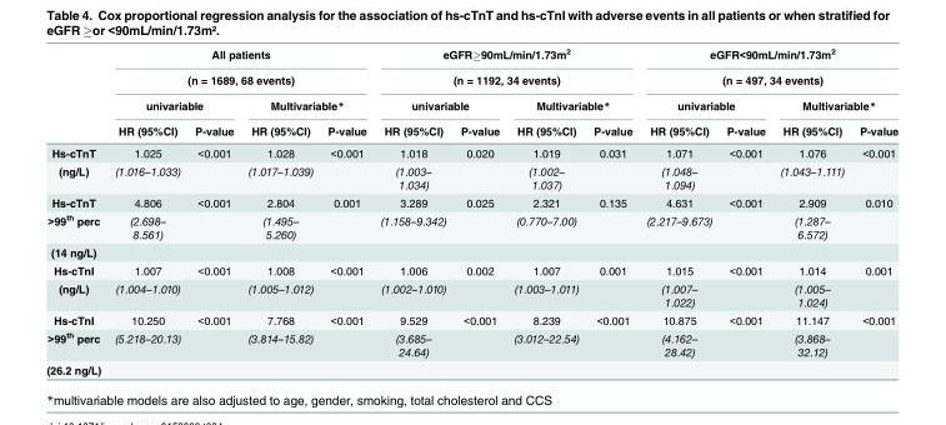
<table><thead><tr><td rowspan="4"></td><td rowspan="2" colspan="4">All patients (n = 1689, 68 events)</td><td rowspan="2" colspan="4">eGFR≥90mL/min/1.73m<sup>2</sup> (n = 1192, 34 events)</td><td rowspan="2" colspan="4">eGFR&lt;90mL/min/1.73m<sup>2</sup> (n = 497, 34 events)</td></tr><tr></tr><tr><td colspan="2">univariable</td><td colspan="2">Multivariable*</td><td colspan="2">univariable</td><td colspan="2">Multivariable*</td><td colspan="2">univariable</td><td colspan="2">Multivariable*</td></tr><tr><td>HR (95%CI)</td><td>P-value</td><td>HR (95%CI)</td><td>P-value</td><td>HR (95%CI)</td><td>P-value</td><td>HR (95%CI)</td><td>P-value</td><td>HR (95%CI)</td><td>P-value</td><td>HR (95%CI)</td><td>P-value</td></tr></thead><tbody><tr><td>Hs-cTnT</td><td>1.025</td><td>&lt;0.001</td><td>1.028</td><td>&lt;0.001</td><td>1.018</td><td>0.020</td><td>1.019</td><td>0.031</td><td>1.071</td><td>&lt;0.001</td><td>1.076</td><td>&lt;0.001</td></tr><tr><td>(ng/L)</td><td>(1.016–1.033)</td><td></td><td>(1.017–1.039)</td><td></td><td>(1.003– 1.034)</td><td></td><td>(1.002– 1.037)</td><td></td><td>(1.048– 1.094)</td><td></td><td>(1.043–1.111)</td><td></td></tr><tr><td>Hs-cTnT</td><td>4.806</td><td>&lt;0.001</td><td>2.804</td><td>0.001</td><td>3.289</td><td>0.025</td><td>2.321</td><td>0.135</td><td>4.631</td><td>&lt;0.001</td><td>2.909</td><td>0.010</td></tr><tr><td>&gt;99<sup>th</sup> perc</td><td>(2.698– 8.561)</td><td></td><td>(1.495– 5.260)</td><td></td><td>(1.158–9.342)</td><td></td><td>(0.770–7.00)</td><td></td><td>(2.217–9.673)</td><td></td><td>(1.287– 6.572)</td><td></td></tr><tr><td colspan="13">(14 ng/L)</td></tr><tr><td>Hs-cTnI</td><td>1.007</td><td>&lt;0.001</td><td>1.008</td><td>&lt;0.001</td><td>1.006</td><td>0.002</td><td>1.007</td><td>0.001</td><td>1.015</td><td>&lt;0.001</td><td>1.014</td><td>0.001</td></tr><tr><td>(ng/L)</td><td>(1.004–1.010)</td><td></td><td>(1.005–1.012)</td><td></td><td>(1.002–1.010)</td><td></td><td>(1.003–1.011)</td><td></td><td>(1.007– 1.022)</td><td></td><td>(1.005– 1.024)</td><td></td></tr><tr><td>Hs-cTnI</td><td>10.250</td><td>&lt;0.001</td><td>7.768</td><td>&lt;0.001</td><td>9.529</td><td>&lt;0.001</td><td>8.239</td><td>&lt;0.001</td><td>10.875</td><td>&lt;0.001</td><td>11.147</td><td>&lt;0.001</td></tr><tr><td>&gt;99<sup>th</sup> perc</td><td>(5.218–20.13)</td><td></td><td>(3.814–15.82)</td><td></td><td>(3.685– 24.64)</td><td></td><td>(3.012–22.54)</td><td></td><td>(4.162– 28.42)</td><td></td><td>(3.868– 32.12)</td><td></td></tr><tr><td>(26.2 ng/L)</td><td></td><td></td><td></td><td></td><td></td><td></td><td></td><td></td><td></td><td></td><td></td><td></td></tr></tbody></table>